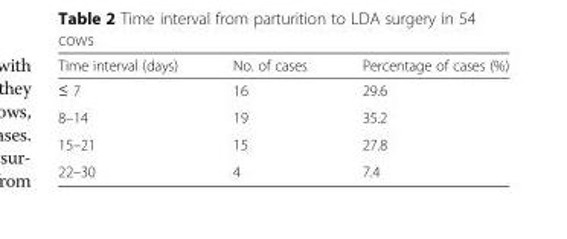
<table><thead><tr><td>Time interval (days)</td><td>No. of cases</td><td>Percentage of cases (%)</td></tr></thead><tbody><tr><td>≤ 7</td><td>16</td><td>29.6</td></tr><tr><td>8–14</td><td>19</td><td>35.2</td></tr><tr><td>15–21</td><td>15</td><td>27.8</td></tr><tr><td>22–30</td><td>4</td><td>7.4</td></tr></tbody></table>